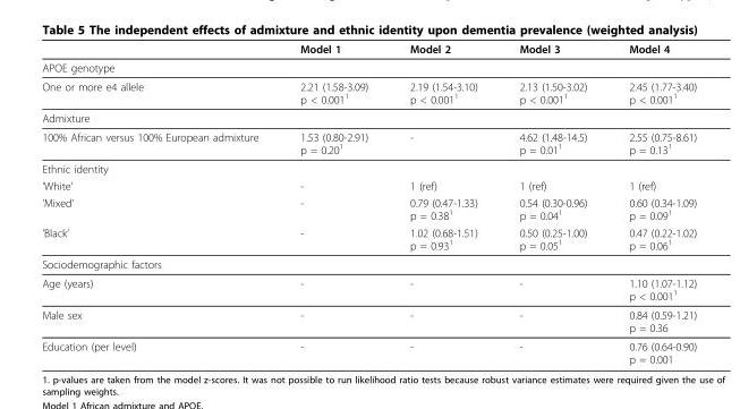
<table><thead><tr><td></td><td>Model 1</td><td>Model 2</td><td>Model 3</td><td>Model 4</td></tr></thead><tbody><tr><td colspan="5">APOE genotype</td></tr><tr><td>One or more e4 allele</td><td>2.21 (1.58-3.09) p &lt; 0.001<sup>1</sup></td><td>2.19 (1.54-3.10) p &lt; 0.001<sup>1</sup></td><td>2.13 (1.50-3.02) p &lt; 0.001<sup>1</sup></td><td>2.45 (1.77-3.40) p &lt; 0.001<sup>1</sup></td></tr><tr><td colspan="5">Admixture</td></tr><tr><td>100% African versus 100% European admixture</td><td>1.53 (0.80-2.91) p = 0.20<sup>1</sup></td><td>-</td><td>4.62 (1.48-14.5) p = 0.01<sup>1</sup></td><td>2.55 (0.75-8.61) p = 0.13<sup>1</sup></td></tr><tr><td colspan="5">Ethnic identity</td></tr><tr><td>’White’</td><td>-</td><td>1 (ref)</td><td>1 (ref)</td><td>1 (ref)</td></tr><tr><td>’Mixed’</td><td>-</td><td>0.79 (0.47-1.33) p = 0.38<sup>1</sup></td><td>0.54 (0.30-0.96) p = 0.04<sup>1</sup></td><td>0.60 (0.34-1.09) p = 0.09<sup>1</sup></td></tr><tr><td>’Black’</td><td>-</td><td>1.02 (0.68-1.51) p = 0.93<sup>1</sup></td><td>0.50 (0.25-1.00) p = 0.05<sup>1</sup></td><td>0.47 (0.22-1.02) p = 0.06<sup>1</sup></td></tr><tr><td colspan="5">Sociodemographic factors</td></tr><tr><td>Age (years)</td><td>-</td><td>-</td><td>-</td><td>1.10 (1.07-1.12) p &lt; 0.001<sup>1</sup></td></tr><tr><td>Male sex</td><td>-</td><td>-</td><td>-</td><td>0.84 (0.59-1.21) p = 0.36</td></tr><tr><td>Education (per level)</td><td>-</td><td>-</td><td>-</td><td>0.76 (0.64-0.90) p = 0.001</td></tr></tbody></table>